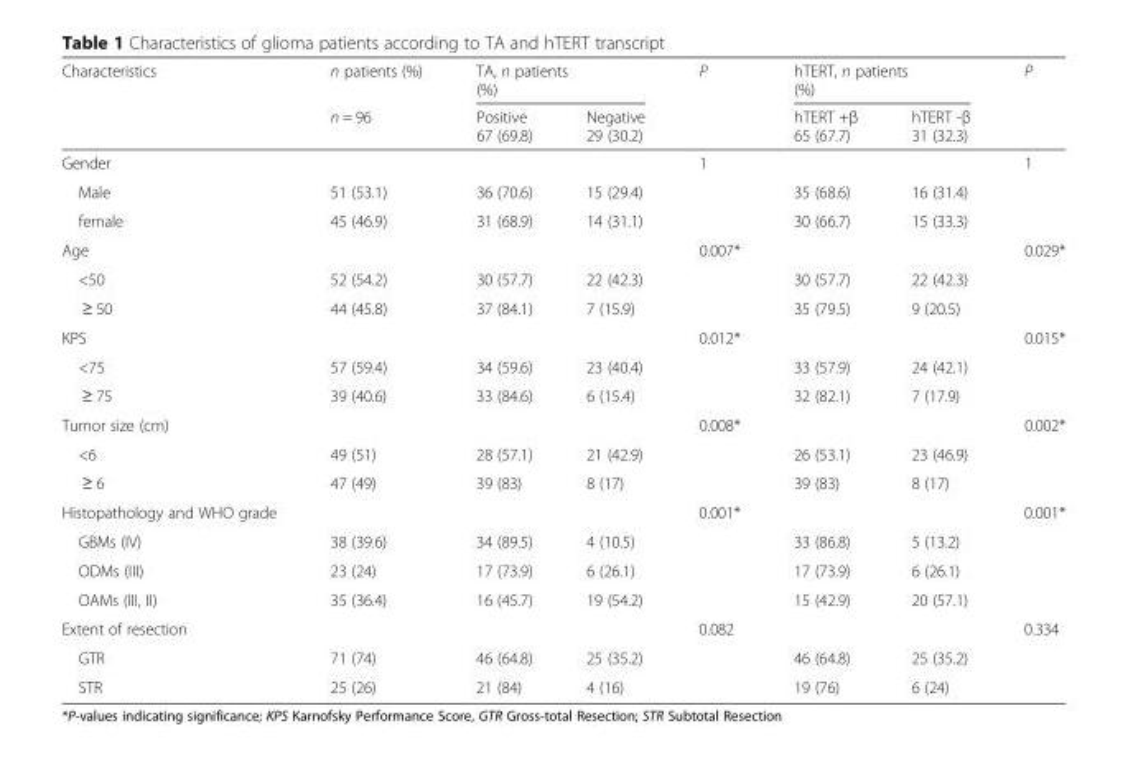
<table><thead><tr><td rowspan="2">Characteristics</td><td rowspan="2">n patients (%) n = 96</td><td colspan="2">TA, n patients (%)</td><td rowspan="2">P</td><td colspan="2">hTERT, n patients (%)</td><td rowspan="2">P</td></tr><tr><td>Positive 67 (69.8)</td><td>Negative 29 (30.2)</td><td>hTERT +β 65 (67.7)</td><td>hTERT -β 31 (32.3)</td></tr></thead><tbody><tr><td>Gender</td><td></td><td></td><td></td><td>1</td><td></td><td></td><td>1</td></tr><tr><td>Male</td><td>51 (53.1)</td><td>36 (70.6)</td><td>15 (29.4)</td><td></td><td>35 (68.6)</td><td>16 (31.4)</td><td></td></tr><tr><td>female</td><td>45 (46.9)</td><td>31 (68.9)</td><td>14 (31.1)</td><td></td><td>30 (66.7)</td><td>15 (33.3)</td><td></td></tr><tr><td>Age</td><td></td><td></td><td></td><td>0.007*</td><td></td><td></td><td>0.029*</td></tr><tr><td>&lt;50</td><td>52 (54.2)</td><td>30 (57.7)</td><td>22 (42.3)</td><td></td><td>30 (57.7)</td><td>22 (42.3)</td><td></td></tr><tr><td>≥ 50</td><td>44 (45.8)</td><td>37 (84.1)</td><td>7 (15.9)</td><td></td><td>35 (79.5)</td><td>9 (20.5)</td><td></td></tr><tr><td>KPS</td><td></td><td></td><td></td><td>0.012*</td><td></td><td></td><td>0.015*</td></tr><tr><td>&lt;75</td><td>57 (59.4)</td><td>34 (59.6)</td><td>23 (40.4)</td><td></td><td>33 (57.9)</td><td>24 (42.1)</td><td></td></tr><tr><td>≥ 75</td><td>39 (40.6)</td><td>33 (84.6)</td><td>6 (15.4)</td><td></td><td>32 (82.1)</td><td>7 (17.9)</td><td></td></tr><tr><td>Tumor size (cm)</td><td></td><td></td><td></td><td>0.008*</td><td></td><td></td><td>0.002*</td></tr><tr><td>&lt;6</td><td>49 (51)</td><td>28 (57.1)</td><td>21 (42.9)</td><td></td><td>26 (53.1)</td><td>23 (46.9)</td><td></td></tr><tr><td>≥ 6</td><td>47 (49)</td><td>39 (83)</td><td>8 (17)</td><td></td><td>39 (83)</td><td>8 (17)</td><td></td></tr><tr><td>Histopathology and WHO grade</td><td></td><td></td><td></td><td>0.001*</td><td></td><td></td><td>0.001*</td></tr><tr><td>GBMs (IV)</td><td>38 (39.6)</td><td>34 (89.5)</td><td>4 (10.5)</td><td></td><td>33 (86.8)</td><td>5 (13.2)</td><td></td></tr><tr><td>ODMs (III)</td><td>23 (24)</td><td>17 (73.9)</td><td>6 (26.1)</td><td></td><td>17 (73.9)</td><td>6 (26.1)</td><td></td></tr><tr><td>OAMs (III, II)</td><td>35 (36.4)</td><td>16 (45.7)</td><td>19 (54.2)</td><td></td><td>15 (42.9)</td><td>20 (57.1)</td><td></td></tr><tr><td>Extent of resection</td><td></td><td></td><td></td><td>0.082</td><td></td><td></td><td>0.334</td></tr><tr><td>GTR</td><td>71 (74)</td><td>46 (64.8)</td><td>25 (35.2)</td><td></td><td>46 (64.8)</td><td>25 (35.2)</td><td></td></tr><tr><td>STR</td><td>25 (26)</td><td>21 (84)</td><td>4 (16)</td><td></td><td>19 (76)</td><td>6 (24)</td><td></td></tr></tbody></table>